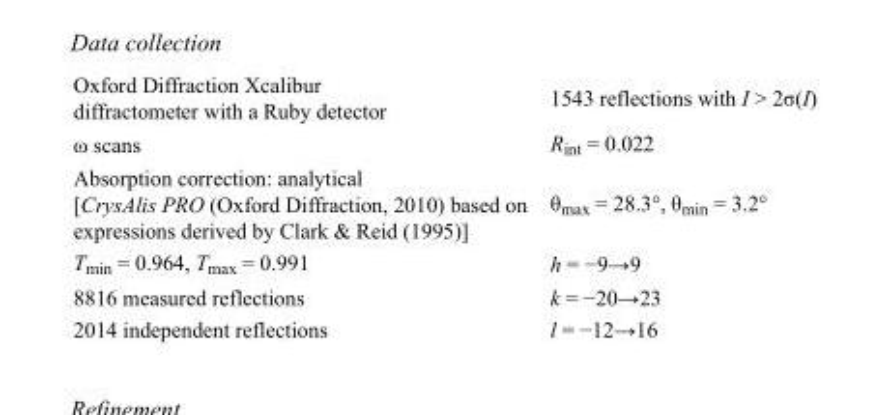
<table><tbody><tr><td>Oxford Diffraction Xcalibur diffractometer with a Ruby detector</td><td>1543 reflections with I &gt; 2σ(I)</td></tr><tr><td>ω scans</td><td>R<sub>int</sub> = 0.022</td></tr><tr><td>Absorption correction: analytical [CrysAlis PRO (Oxford Diffraction, 2010) based on expressions derived by Clark &amp; Reid (1995)]</td><td>θ<sub>max</sub> = 28.3°, θ<sub>min</sub> = 3.2°</td></tr><tr><td>T<sub>min</sub> = 0.964, T<sub>max</sub> = 0.991</td><td>h = −9→9</td></tr><tr><td>8816 measured reflections</td><td>k = −20→23</td></tr><tr><td>2014 independent reflections</td><td>l = −12→16</td></tr></tbody></table>